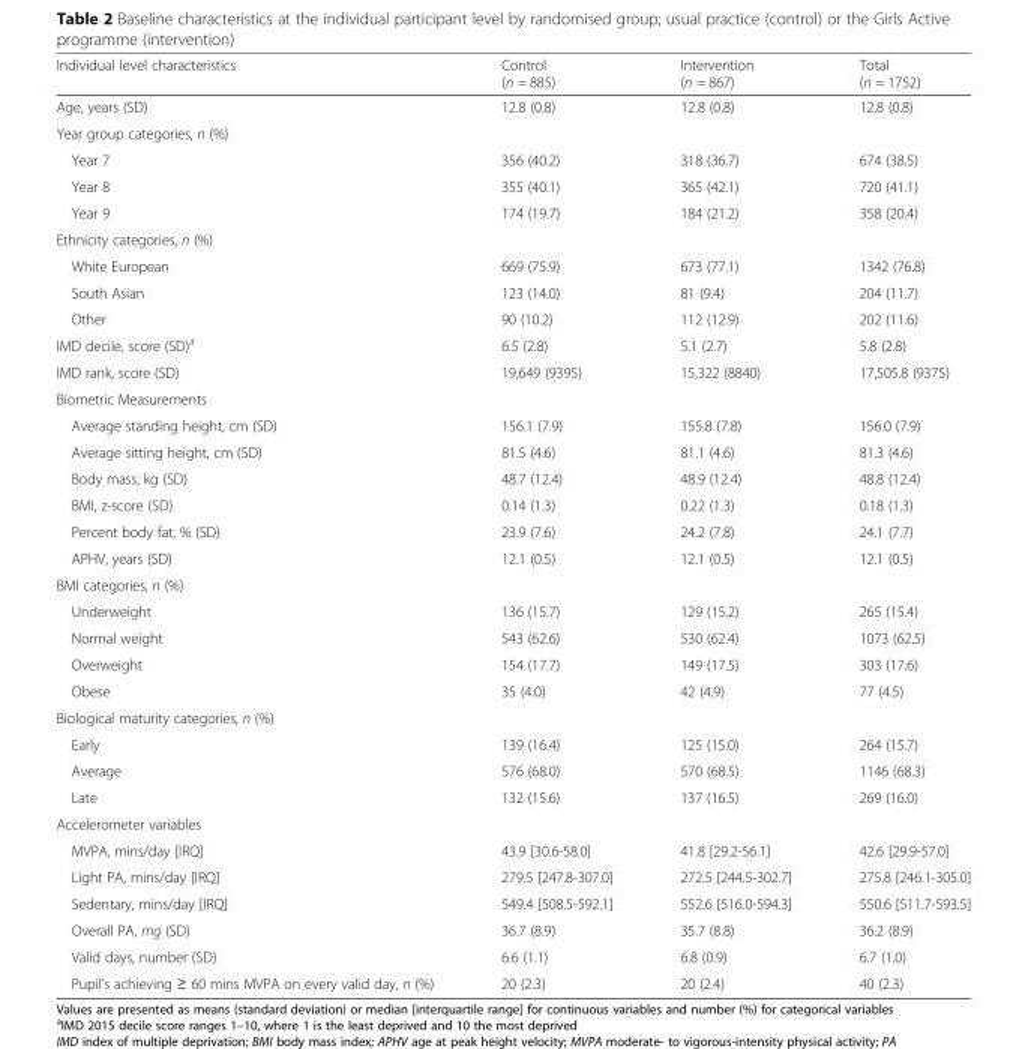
<table><thead><tr><td>Individual level characteristics</td><td>Control (n = 885)</td><td>Intervention (n = 867)</td><td>Total (n = 1752)</td></tr></thead><tbody><tr><td>Age, years (SD)</td><td>12.8 (0.8)</td><td>12.8 (0.8)</td><td>12.8 (0.8)</td></tr><tr><td colspan="4">Year group categories, n (%)</td></tr><tr><td>Year 7</td><td>356 (40.2)</td><td>318 (36.7)</td><td>674 (38.5)</td></tr><tr><td>Year 8</td><td>355 (40.1)</td><td>365 (42.1)</td><td>720 (41.1)</td></tr><tr><td>Year 9</td><td>174 (19.7)</td><td>184 (21.2)</td><td>358 (20.4)</td></tr><tr><td colspan="4">Ethnicity categories, n (%)</td></tr><tr><td>White European</td><td>669 (75.9)</td><td>673 (77.1)</td><td>1342 (76.8)</td></tr><tr><td>South Asian</td><td>123 (14.0)</td><td>81 (9.4)</td><td>204 (11.7)</td></tr><tr><td>Other</td><td>90 (10.2)</td><td>112 (12.9)</td><td>202 (11.6)</td></tr><tr><td>IMD decile, score (SD)<sup>a</sup></td><td>6.5 (2.8)</td><td>5.1 (2.7)</td><td>5.8 (2.8)</td></tr><tr><td>IMD rank, score (SD)</td><td>19,649 (9395)</td><td>15,322 (8840)</td><td>17,505.8 (9375)</td></tr><tr><td colspan="4">Biometric Measurements</td></tr><tr><td>Average standing height, cm (SD)</td><td>156.1 (7.9)</td><td>155.8 (7.8)</td><td>156.0 (7.9)</td></tr><tr><td>Average sitting height, cm (SD)</td><td>81.5 (4.6)</td><td>81.1 (4.6)</td><td>81.3 (4.6)</td></tr><tr><td>Body mass, kg (SD)</td><td>48.7 (12.4)</td><td>48.9 (12.4)</td><td>48.8 (12.4)</td></tr><tr><td>BMI, z-score (SD)</td><td>0.14 (1.3)</td><td>0.22 (1.3)</td><td>0.18 (1.3)</td></tr><tr><td>Percent body fat, % (SD)</td><td>23.9 (7.6)</td><td>24.2 (7.8)</td><td>24.1 (7.7)</td></tr><tr><td>APHV, years (SD)</td><td>12.1 (0.5)</td><td>12.1 (0.5)</td><td>12.1 (0.5)</td></tr><tr><td colspan="4">BMI categories, n (%)</td></tr><tr><td>Underweight</td><td>136 (15.7)</td><td>129 (15.2)</td><td>265 (15.4)</td></tr><tr><td>Normal weight</td><td>543 (62.6)</td><td>530 (62.4)</td><td>1073 (62.5)</td></tr><tr><td>Overweight</td><td>154 (17.7)</td><td>149 (17.5)</td><td>303 (17.6)</td></tr><tr><td>Obese</td><td>35 (4.0)</td><td>42 (4.9)</td><td>77 (4.5)</td></tr><tr><td colspan="4">Biological maturity categories, n (%)</td></tr><tr><td>Early</td><td>139 (16.4)</td><td>125 (15.0)</td><td>264 (15.7)</td></tr><tr><td>Average</td><td>576 (68.0)</td><td>570 (68.5)</td><td>1146 (68.3)</td></tr><tr><td>Late</td><td>132 (15.6)</td><td>137 (16.5)</td><td>269 (16.0)</td></tr><tr><td colspan="4">Accelerometer variables</td></tr><tr><td>MVPA, mins/day [IRQ]</td><td>43.9 [30.6-58.0]</td><td>41.8 [29.2-56.1]</td><td>42.6 [29.9-57.0]</td></tr><tr><td>Light PA, mins/day [IRQ]</td><td>279.5 [247.8-307.0]</td><td>272.5 [244.5-302.7]</td><td>275.8 [246.1-305.0]</td></tr><tr><td>Sedentary, mins/day [IRQ]</td><td>549.4 [508.5-592.1]</td><td>552.6 [516.0-594.3]</td><td>550.6 [511.7-593.5]</td></tr><tr><td>Overall PA, mg (SD)</td><td>36.7 (8.9)</td><td>35.7 (8.8)</td><td>36.2 (8.9)</td></tr><tr><td>Valid days, number (SD)</td><td>6.6 (1.1)</td><td>6.8 (0.9)</td><td>6.7 (1.0)</td></tr><tr><td>Pupil’s achieving ≥ 60 mins MVPA on every valid day, n (%)</td><td>20 (2.3)</td><td>20 (2.4)</td><td>40 (2.3)</td></tr></tbody></table>